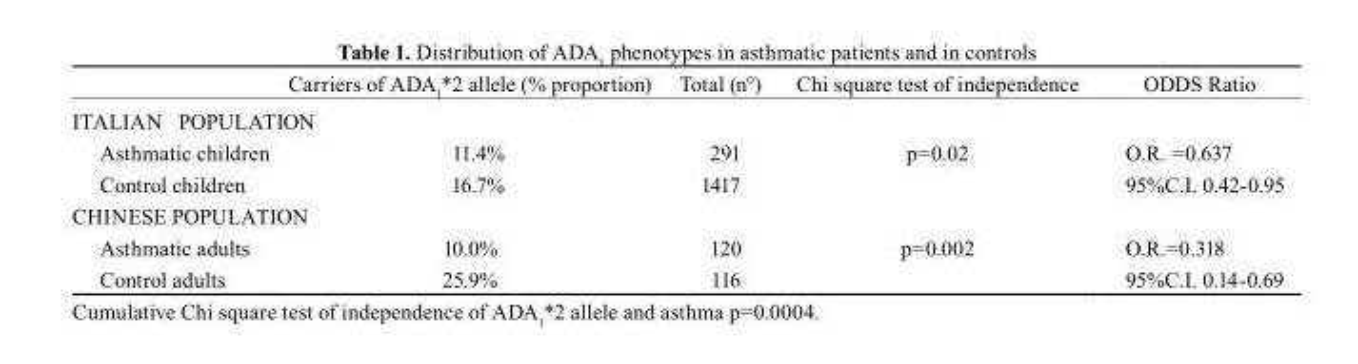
<table><thead><tr><td></td><td>Carriers of ADA<sub>1</sub>*2 allele (% proportion)</td><td>Total (n°)</td><td>Chi square test of independence</td><td>ODDS Ratio</td></tr></thead><tbody><tr><td colspan="5">ITALIAN POPULATION</td></tr><tr><td>Asthmatic children</td><td>11.4%</td><td>291</td><td>p=0.02</td><td>O.R. =0.637</td></tr><tr><td>Control children</td><td>16.7%</td><td>1417</td><td></td><td>95%C.I. 0.42-0.95</td></tr><tr><td colspan="5">CHINESE POPULATION</td></tr><tr><td>Asthmatic adults</td><td>10.0%</td><td>120</td><td>p=0.002</td><td>O.R.=0.318</td></tr><tr><td>Control adults</td><td>25.9%</td><td>116</td><td></td><td>95%C.I. 0.14-0.69</td></tr></tbody></table>